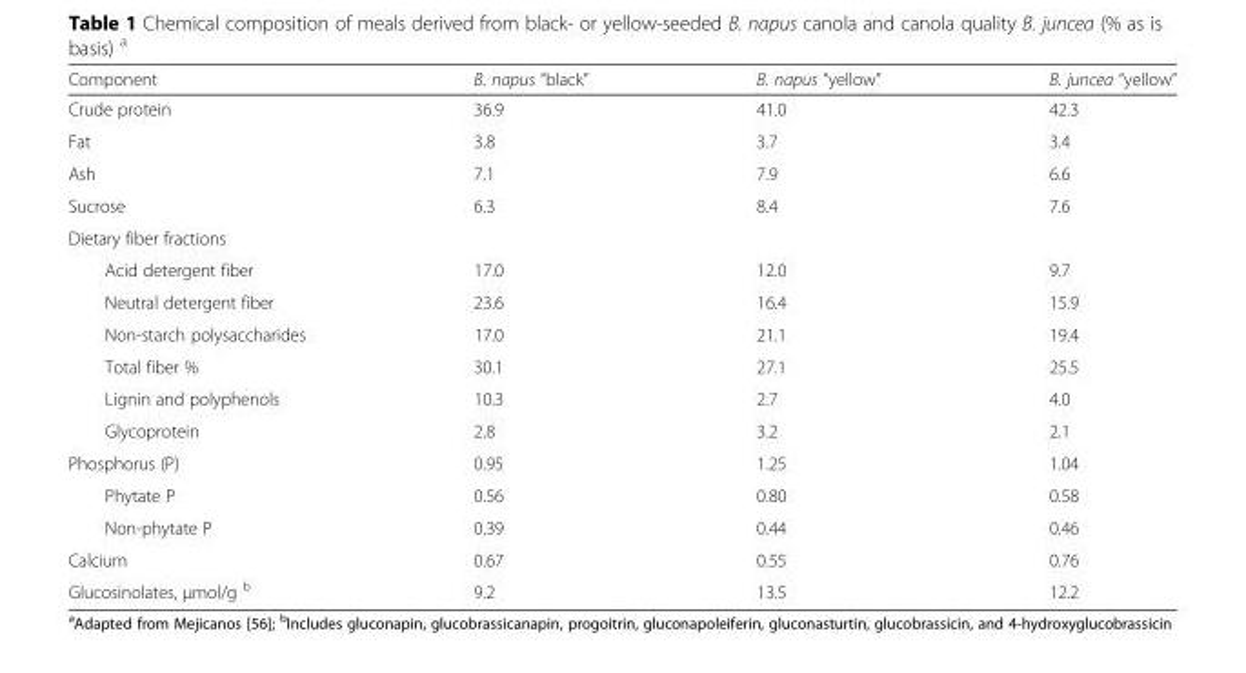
<table><thead><tr><td>Component</td><td>B. napus “black”</td><td>B. napus “yellow”</td><td>B. juncea “yellow”</td></tr></thead><tbody><tr><td>Crude protein</td><td>36.9</td><td>41.0</td><td>42.3</td></tr><tr><td>Fat</td><td>3.8</td><td>3.7</td><td>3.4</td></tr><tr><td>Ash</td><td>7.1</td><td>7.9</td><td>6.6</td></tr><tr><td>Sucrose</td><td>6.3</td><td>8.4</td><td>7.6</td></tr><tr><td colspan="4">Dietary fiber fractions</td></tr><tr><td>Acid detergent fiber</td><td>17.0</td><td>12.0</td><td>9.7</td></tr><tr><td>Neutral detergent fiber</td><td>23.6</td><td>16.4</td><td>15.9</td></tr><tr><td>Non-starch polysaccharides</td><td>17.0</td><td>21.1</td><td>19.4</td></tr><tr><td>Total fiber %</td><td>30.1</td><td>27.1</td><td>25.5</td></tr><tr><td>Lignin and polyphenols</td><td>10.3</td><td>2.7</td><td>4.0</td></tr><tr><td>Glycoprotein</td><td>2.8</td><td>3.2</td><td>2.1</td></tr><tr><td>Phosphorus (P)</td><td>0.95</td><td>1.25</td><td>1.04</td></tr><tr><td>Phytate P</td><td>0.56</td><td>0.80</td><td>0.58</td></tr><tr><td>Non-phytate P</td><td>0.39</td><td>0.44</td><td>0.46</td></tr><tr><td>Calcium</td><td>0.67</td><td>0.55</td><td>0.76</td></tr><tr><td>Glucosinolates, μmol/g <sup>b</sup></td><td>9.2</td><td>13.5</td><td>12.2</td></tr></tbody></table>